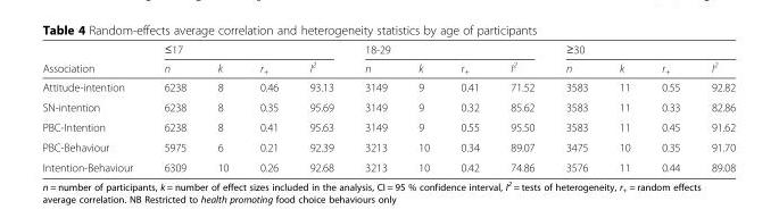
<table><thead><tr><td rowspan="2">Association</td><td colspan="4">≤17</td><td colspan="4">18-29</td><td colspan="4">≥30</td></tr><tr><td>n</td><td>k</td><td>r<sub>+</sub></td><td>I<sup>2</sup></td><td>n</td><td>k</td><td>r<sub>+</sub></td><td>I<sup>2</sup></td><td>n</td><td>k</td><td>r<sub>+</sub></td><td>I<sup>2</sup></td></tr></thead><tbody><tr><td>Attitude-intention</td><td>6238</td><td>8</td><td>0.46</td><td>93.13</td><td>3149</td><td>9</td><td>0.41</td><td>71.52</td><td>3583</td><td>11</td><td>0.55</td><td>92.82</td></tr><tr><td>SN-intention</td><td>6238</td><td>8</td><td>0.35</td><td>95.69</td><td>3149</td><td>9</td><td>0.32</td><td>85.62</td><td>3583</td><td>11</td><td>0.33</td><td>82.86</td></tr><tr><td>PBC-Intention</td><td>6238</td><td>8</td><td>0.41</td><td>95.63</td><td>3149</td><td>9</td><td>0.55</td><td>95.50</td><td>3583</td><td>11</td><td>0.45</td><td>91.62</td></tr><tr><td>PBC-Behaviour</td><td>5975</td><td>6</td><td>0.21</td><td>92.39</td><td>3213</td><td>10</td><td>0.34</td><td>89.07</td><td>3475</td><td>10</td><td>0.35</td><td>91.70</td></tr><tr><td>Intention-Behaviour</td><td>6309</td><td>10</td><td>0.26</td><td>92.68</td><td>3213</td><td>10</td><td>0.42</td><td>74.86</td><td>3576</td><td>11</td><td>0.44</td><td>89.08</td></tr></tbody></table>